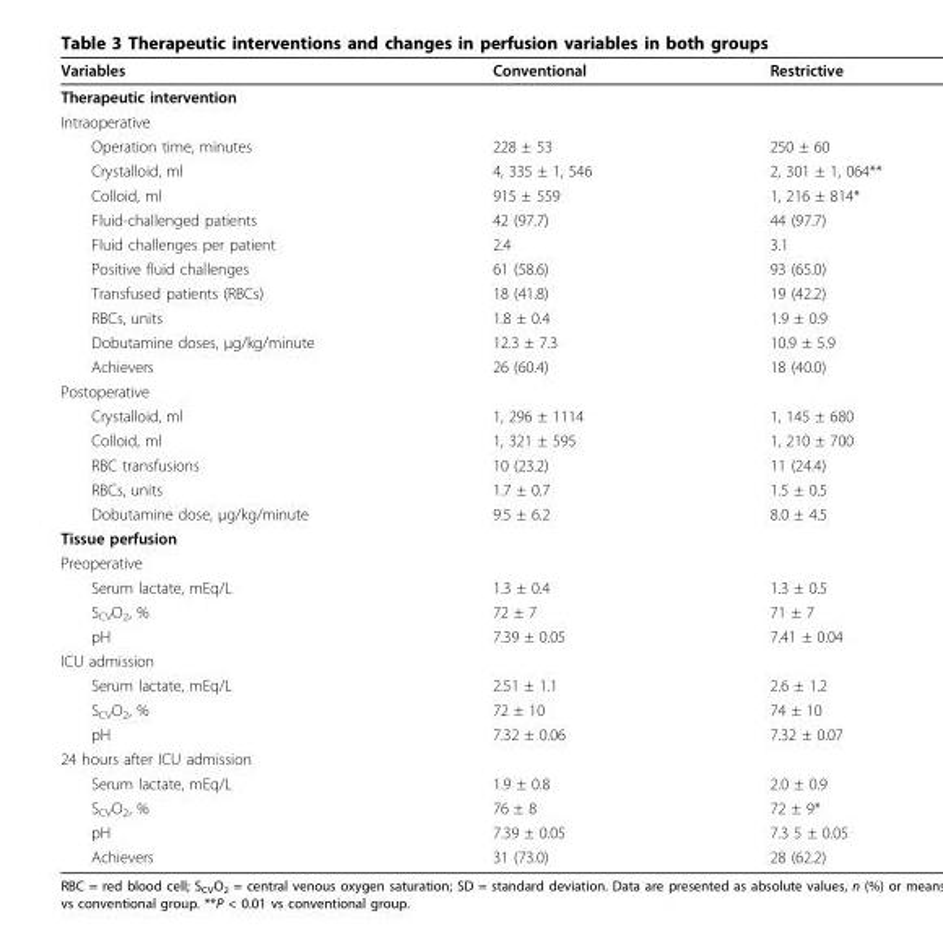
<table><thead><tr><td>Variables</td><td>Conventional</td><td>Restrictive</td></tr></thead><tbody><tr><td colspan="3">Therapeutic intervention</td></tr><tr><td colspan="3">Intraoperative</td></tr><tr><td>Operation time, minutes</td><td>228 ± 53</td><td>250 ± 60</td></tr><tr><td>Crystalloid, ml</td><td>4, 335 ± 1, 546</td><td>2, 301 ± 1, 064**</td></tr><tr><td>Colloid, ml</td><td>915 ± 559</td><td>1, 216 ± 814*</td></tr><tr><td>Fluid-challenged patients</td><td>42 (97.7)</td><td>44 (97.7)</td></tr><tr><td>Fluid challenges per patient</td><td>2.4</td><td>3.1</td></tr><tr><td>Positive fluid challenges</td><td>61 (58.6)</td><td>93 (65.0)</td></tr><tr><td>Transfused patients (RBCs)</td><td>18 (41.8)</td><td>19 (42.2)</td></tr><tr><td>RBCs, units</td><td>1.8 ± 0.4</td><td>1.9 ± 0.9</td></tr><tr><td>Dobutamine doses, μg/kg/minute</td><td>12.3 ± 7.3</td><td>10.9 ± 5.9</td></tr><tr><td>Achievers</td><td>26 (60.4)</td><td>18 (40.0)</td></tr><tr><td colspan="3">Postoperative</td></tr><tr><td>Crystalloid, ml</td><td>1, 296 ± 1114</td><td>1, 145 ± 680</td></tr><tr><td>Colloid, ml</td><td>1, 321 ± 595</td><td>1, 210 ± 700</td></tr><tr><td>RBC transfusions</td><td>10 (23.2)</td><td>11 (24.4)</td></tr><tr><td>RBCs, units</td><td>1.7 ± 0.7</td><td>1.5 ± 0.5</td></tr><tr><td>Dobutamine dose, μg/kg/minute</td><td>9.5 ± 6.2</td><td>8.0 ± 4.5</td></tr><tr><td colspan="3">Tissue perfusion</td></tr><tr><td colspan="3">Preoperative</td></tr><tr><td>Serum lactate, mEq/L</td><td>1.3 ± 0.4</td><td>1.3 ± 0.5</td></tr><tr><td>S<sub>CV</sub>O<sub>2</sub>, %</td><td>72 ± 7</td><td>71 ± 7</td></tr><tr><td>pH</td><td>7.39 ± 0.05</td><td>7.41 ± 0.04</td></tr><tr><td colspan="3">ICU admission</td></tr><tr><td>Serum lactate, mEq/L</td><td>2.51 ± 1.1</td><td>2.6 ± 1.2</td></tr><tr><td>S<sub>CV</sub>O<sub>2</sub>, %</td><td>72 ± 10</td><td>74 ± 10</td></tr><tr><td>pH</td><td>7.32 ± 0.06</td><td>7.32 ± 0.07</td></tr><tr><td colspan="3">24 hours after ICU admission</td></tr><tr><td>Serum lactate, mEq/L</td><td>1.9 ± 0.8</td><td>2.0 ± 0.9</td></tr><tr><td>S<sub>CV</sub>O<sub>2</sub>, %</td><td>76 ± 8</td><td>72 ± 9*</td></tr><tr><td>pH</td><td>7.39 ± 0.05</td><td>7.3 5 ± 0.05</td></tr><tr><td>Achievers</td><td>31 (73.0)</td><td>28 (62.2)</td></tr></tbody></table>